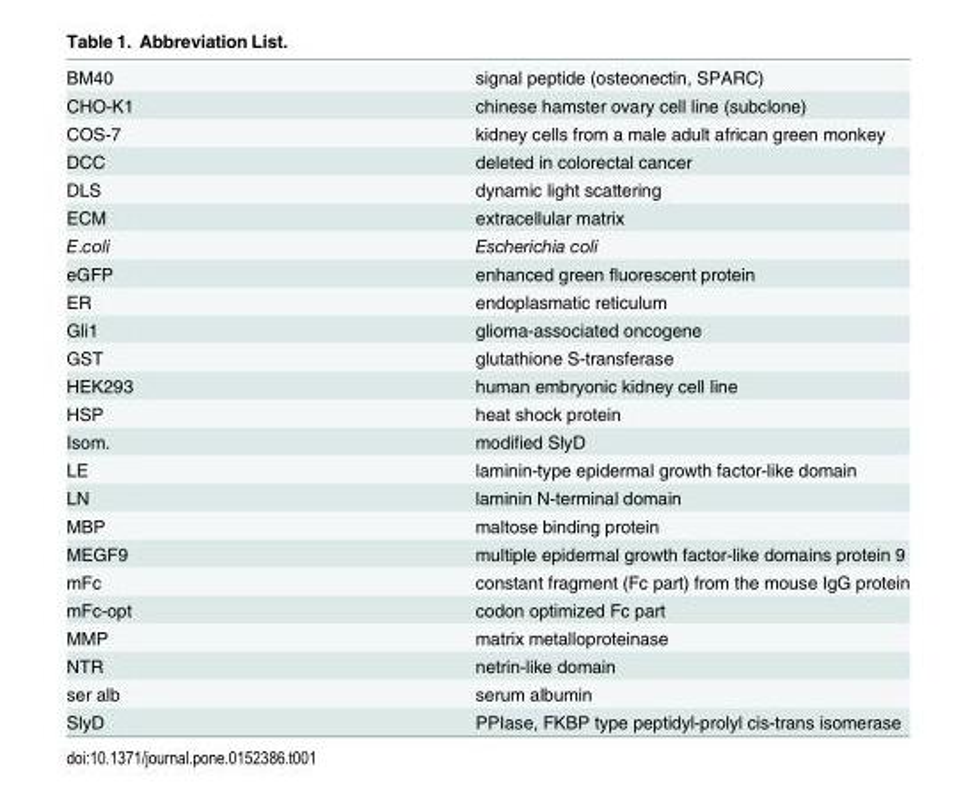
<table><tbody><tr><td>BM40</td><td>signal peptide (osteonectin, SPARC)</td></tr><tr><td>CHO-K1</td><td>chinese hamster ovary cell line (subclone)</td></tr><tr><td>COS-7</td><td>kidney cells from a male adult african green monkey</td></tr><tr><td>DCC</td><td>deleted in colorectal cancer</td></tr><tr><td>DLS</td><td>dynamic light scattering</td></tr><tr><td>ECM</td><td>extracellular matrix</td></tr><tr><td>E.coli</td><td>Escherichia coli</td></tr><tr><td>eGFP</td><td>enhanced green fluorescent protein</td></tr><tr><td>ER</td><td>endoplasmatic reticulum</td></tr><tr><td>Gli1</td><td>glioma-associated oncogene</td></tr><tr><td>GST</td><td>glutathione S-transferase</td></tr><tr><td>HEK293</td><td>human embryonic kidney cell line</td></tr><tr><td>HSP</td><td>heat shock protein</td></tr><tr><td>Isom.</td><td>modified SlyD</td></tr><tr><td>LE</td><td>laminin-type epidermal growth factor-like domain</td></tr><tr><td>LN</td><td>laminin N-terminal domain</td></tr><tr><td>MBP</td><td>maltose binding protein</td></tr><tr><td>MEGF9</td><td>multiple epidermal growth factor-like domains protein 9</td></tr><tr><td>mFc</td><td>constant fragment (Fc part) from the mouse IgG protein</td></tr><tr><td>mFc-opt</td><td>codon optimized Fc part</td></tr><tr><td>MMP</td><td>matrix metalloproteinase</td></tr><tr><td>NTR</td><td>netrin-like domain</td></tr><tr><td>ser alb</td><td>serum albumin</td></tr><tr><td>SlyD</td><td>PPIase, FKBP type peptidyl-prolyl cis-trans isomerase</td></tr></tbody></table>